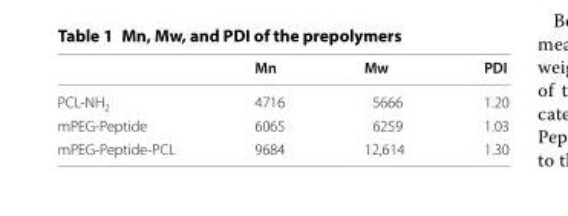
<table><thead><tr><td></td><td>Mn</td><td>Mw</td><td>PDI</td></tr></thead><tbody><tr><td>PCL-NH<sub>2</sub></td><td>4716</td><td>5666</td><td>1.20</td></tr><tr><td>mPEG-Peptide</td><td>6065</td><td>6259</td><td>1.03</td></tr><tr><td>mPEG-Peptide-PCL</td><td>9684</td><td>12,614</td><td>1.30</td></tr></tbody></table>